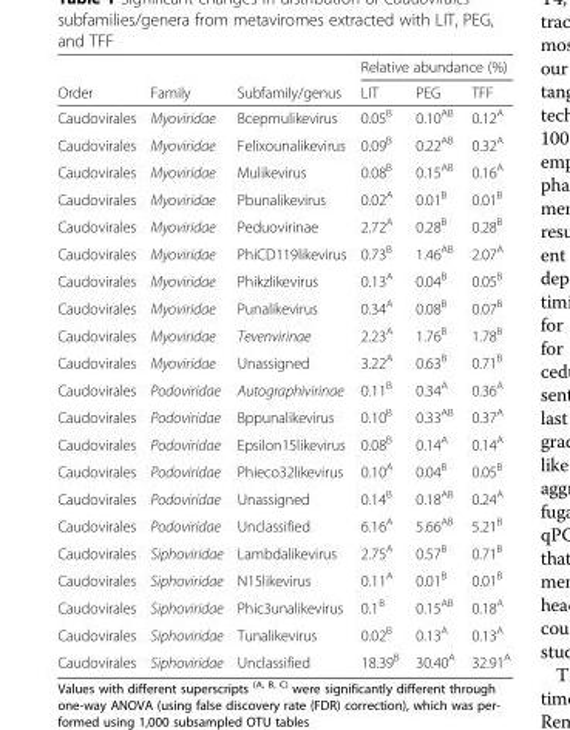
<table><thead><tr><td rowspan="2">Order</td><td rowspan="2">Family</td><td rowspan="2">Subfamily/genus</td><td colspan="3">Relative abundance (%)</td></tr><tr><td>LIT</td><td>PEG</td><td>TFF</td></tr></thead><tbody><tr><td>Caudovirales</td><td>Myoviridae</td><td>Bcepmulikevirus</td><td>0.05<sup>B</sup></td><td>0.10<sup>AB</sup></td><td>0.12<sup>A</sup></td></tr><tr><td>Caudovirales</td><td>Myoviridae</td><td>Felixounalikevirus</td><td>0.09<sup>B</sup></td><td>0.22<sup>AB</sup></td><td>0.32<sup>A</sup></td></tr><tr><td>Caudovirales</td><td>Myoviridae</td><td>Mulikevirus</td><td>0.08<sup>B</sup></td><td>0.15<sup>AB</sup></td><td>0.16<sup>A</sup></td></tr><tr><td>Caudovirales</td><td>Myoviridae</td><td>Pbunalikevirus</td><td>0.02<sup>A</sup></td><td>0.01<sup>B</sup></td><td>0.01<sup>B</sup></td></tr><tr><td>Caudovirales</td><td>Myoviridae</td><td>Peduovirinae</td><td>2.72<sup>A</sup></td><td>0.28<sup>B</sup></td><td>0.28<sup>B</sup></td></tr><tr><td>Caudovirales</td><td>Myoviridae</td><td>PhiCD119likevirus</td><td>0.73<sup>B</sup></td><td>1.46<sup>AB</sup></td><td>2.07<sup>A</sup></td></tr><tr><td>Caudovirales</td><td>Myoviridae</td><td>Phikzlikevirus</td><td>0.13<sup>A</sup></td><td>0.04<sup>B</sup></td><td>0.05<sup>B</sup></td></tr><tr><td>Caudovirales</td><td>Myoviridae</td><td>Punalikevirus</td><td>0.34<sup>A</sup></td><td>0.08<sup>B</sup></td><td>0.07<sup>B</sup></td></tr><tr><td>Caudovirales</td><td>Myoviridae</td><td>Tevenvirinae</td><td>2.23<sup>A</sup></td><td>1.76<sup>B</sup></td><td>1.78<sup>B</sup></td></tr><tr><td>Caudovirales</td><td>Myoviridae</td><td>Unassigned</td><td>3.22<sup>A</sup></td><td>0.63<sup>B</sup></td><td>0.71<sup>B</sup></td></tr><tr><td>Caudovirales</td><td>Podoviridae</td><td>Autographivirinae</td><td>0.11<sup>B</sup></td><td>0.34<sup>A</sup></td><td>0.36<sup>A</sup></td></tr><tr><td>Caudovirales</td><td>Podoviridae</td><td>Bppunalikevirus</td><td>0.10<sup>B</sup></td><td>0.33<sup>AB</sup></td><td>0.37<sup>A</sup></td></tr><tr><td>Caudovirales</td><td>Podoviridae</td><td>Epsilon15likevirus</td><td>0.08<sup>B</sup></td><td>0.14<sup>A</sup></td><td>0.14<sup>A</sup></td></tr><tr><td>Caudovirales</td><td>Podoviridae</td><td>Phieco32likevirus</td><td>0.10<sup>A</sup></td><td>0.04<sup>B</sup></td><td>0.05<sup>B</sup></td></tr><tr><td>Caudovirales</td><td>Podoviridae</td><td>Unassigned</td><td>0.14<sup>B</sup></td><td>0.18<sup>AB</sup></td><td>0.24<sup>A</sup></td></tr><tr><td>Caudovirales</td><td>Podoviridae</td><td>Unclassified</td><td>6.16<sup>A</sup></td><td>5.66<sup>AB</sup></td><td>5.21<sup>B</sup></td></tr><tr><td>Caudovirales</td><td>Siphoviridae</td><td>Lambdalikevirus</td><td>2.75<sup>A</sup></td><td>0.57<sup>B</sup></td><td>0.71<sup>B</sup></td></tr><tr><td>Caudovirales</td><td>Siphoviridae</td><td>N15likevirus</td><td>0.11<sup>A</sup></td><td>0.01<sup>B</sup></td><td>0.01<sup>B</sup></td></tr><tr><td>Caudovirales</td><td>Siphoviridae</td><td>Phic3unalikevirus</td><td>0.1<sup>B</sup></td><td>0.15<sup>AB</sup></td><td>0.18<sup>A</sup></td></tr><tr><td>Caudovirales</td><td>Siphoviridae</td><td>Tunalikevirus</td><td>0.02<sup>B</sup></td><td>0.13<sup>A</sup></td><td>0.13<sup>A</sup></td></tr><tr><td>Caudovirales</td><td>Siphoviridae</td><td>Unclassified</td><td>18.39<sup>B</sup></td><td>30.40<sup>A</sup></td><td>32.91<sup>A</sup></td></tr></tbody></table>